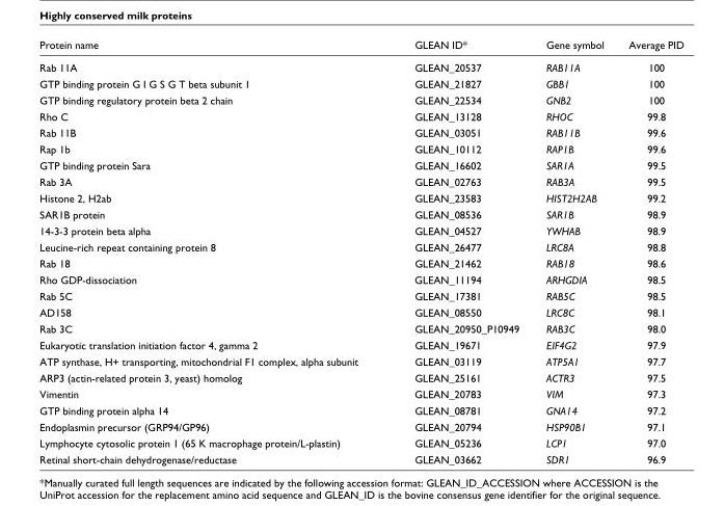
<table><thead><tr><td>Protein name</td><td>GLEAN ID*</td><td>Gene symbol</td><td>Average PID</td></tr></thead><tbody><tr><td>Rab 11A</td><td>GLEAN_20537</td><td>RAB11A</td><td>100</td></tr><tr><td>GTP binding protein G I G S G T beta subunit 1</td><td>GLEAN_21827</td><td>GBB1</td><td>100</td></tr><tr><td>GTP binding regulatory protein beta 2 chain</td><td>GLEAN_22534</td><td>GNB2</td><td>100</td></tr><tr><td>Rho C</td><td>GLEAN_13128</td><td>RHOC</td><td>99.8</td></tr><tr><td>Rab 11B</td><td>GLEAN_03051</td><td>RAB11B</td><td>99.6</td></tr><tr><td>Rap 1b</td><td>GLEAN_10112</td><td>RAP1B</td><td>99.6</td></tr><tr><td>GTP binding protein Sara</td><td>GLEAN_16602</td><td>SAR1A</td><td>99.5</td></tr><tr><td>Rab 3A</td><td>GLEAN_02763</td><td>RAB3A</td><td>99.5</td></tr><tr><td>Histone 2, H2ab</td><td>GLEAN_23583</td><td>HIST2H2AB</td><td>99.2</td></tr><tr><td>SAR1B protein</td><td>GLEAN_08536</td><td>SAR1B</td><td>98.9</td></tr><tr><td>14-3-3 protein beta alpha</td><td>GLEAN_04527</td><td>YWHAB</td><td>98.9</td></tr><tr><td>Leucine-rich repeat containing protein 8</td><td>GLEAN_26477</td><td>LRC8A</td><td>98.8</td></tr><tr><td>Rab 18</td><td>GLEAN_21462</td><td>RAB18</td><td>98.6</td></tr><tr><td>Rho GDP-dissociation</td><td>GLEAN_11194</td><td>ARHGDIA</td><td>98.5</td></tr><tr><td>Rab 5C</td><td>GLEAN_17381</td><td>RAB5C</td><td>98.5</td></tr><tr><td>AD158</td><td>GLEAN_08550</td><td>LRC8C</td><td>98.1</td></tr><tr><td>Rab 3C</td><td>GLEAN_20950_P10949</td><td>RAB3C</td><td>98.0</td></tr><tr><td>Eukaryotic translation initiation factor 4, gamma 2</td><td>GLEAN_19671</td><td>EIF4G2</td><td>97.9</td></tr><tr><td>ATP synthase, H+ transporting, mitochondrial F1 complex, alpha subunit</td><td>GLEAN_03119</td><td>ATP5A1</td><td>97.7</td></tr><tr><td>ARP3 (actin-related protein 3, yeast) homolog</td><td>GLEAN_25161</td><td>ACTR3</td><td>97.5</td></tr><tr><td>Vimentin</td><td>GLEAN_20783</td><td>VIM</td><td>97.3</td></tr><tr><td>GTP binding protein alpha 14</td><td>GLEAN_08781</td><td>GNA14</td><td>97.2</td></tr><tr><td>Endoplasmin precursor (GRP94/GP96)</td><td>GLEAN_20794</td><td>HSP90B1</td><td>97.1</td></tr><tr><td>Lymphocyte cytosolic protein 1 (65 K macrophage protein/L-plastin)</td><td>GLEAN_05236</td><td>LCP1</td><td>97.0</td></tr><tr><td>Retinal short-chain dehydrogenase/reductase</td><td>GLEAN_03662</td><td>SDR1</td><td>96.9</td></tr></tbody></table>